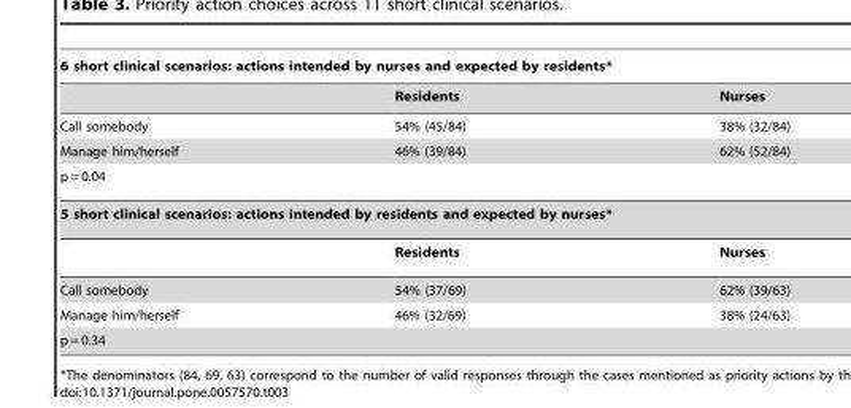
<table><thead><tr><td colspan="3">6 short clinical scenarios: actions intended by nurses and expected by residents*</td></tr><tr><td></td><td>Residents</td><td>Nurses</td></tr></thead><tbody><tr><td>Call somebody</td><td>54% (45/84)</td><td>38% (32/84)</td></tr><tr><td>Manage him/herself</td><td>46% (39/84)</td><td>62% (52/84)</td></tr><tr><td colspan="3">p = 0.04</td></tr><tr><td colspan="3">5 short clinical scenarios: actions intended by residents and expected by nurses*</td></tr><tr><td></td><td>Residents</td><td>Nurses</td></tr><tr><td>Call somebody</td><td>54% (37/69)</td><td>62% (39/63)</td></tr><tr><td>Manage him/herself</td><td>46% (32/69)</td><td>38% (24/63)</td></tr><tr><td colspan="3">p = 0.34</td></tr></tbody></table>